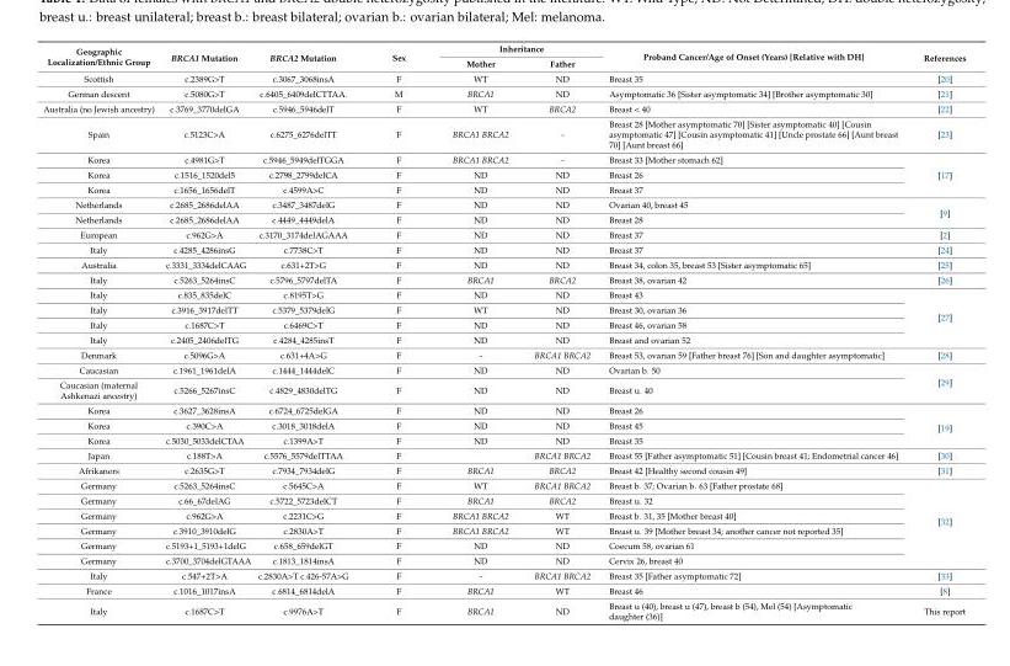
<table><thead><tr><td rowspan="2">Geographic Localization/Ethnic Group</td><td rowspan="2">BRCA1 Mutation</td><td rowspan="2">BRCA2 Mutation</td><td rowspan="2">Sex</td><td colspan="2">Inheritance</td><td rowspan="2">Proband Cancer/Age of Onset (Years) [Relative with DH]</td><td rowspan="2">References</td></tr><tr><td>Mother</td><td>Father</td></tr></thead><tbody><tr><td>Scottish</td><td>c.2389G&gt;T</td><td>c.3067_3068insA</td><td>F</td><td>WT</td><td>ND</td><td>Breast 35</td><td>[20]</td></tr><tr><td>German descent</td><td>c.5080G&gt;T</td><td>c.6405_6409delCTTAA.</td><td>M</td><td>BRCA1</td><td>ND</td><td>Asymptomatic 36 [Sister asymptomatic 34] [Brother asymptomatic 30]</td><td>[21]</td></tr><tr><td>Australia (no Jewish ancestry)</td><td>c.3769_3770delGA</td><td>c.5946_5946delT</td><td>F</td><td>WT</td><td>BRCA2</td><td>Breast &lt; 40</td><td>[22]</td></tr><tr><td>Spain</td><td>c.5123C&gt;A</td><td>c.6275_6276delTT</td><td>F</td><td>BRCA1 BRCA2</td><td>-</td><td>Breast 28 [Mother asymptomatic 70] [Sister asymptomatic 40] [Cousin asymptomatic 47] [Cousin asymptomatic 41] [Uncle prostate 66] [Aunt breast 70] [Aunt breast 66]</td><td>[23]</td></tr><tr><td>Korea</td><td>c.4981G&gt;T</td><td>c.5946_5949delTGGA</td><td>F</td><td>BRCA1 BRCA2</td><td>-</td><td>Breast 33 [Mother stomach 62]</td><td rowspan="3">[17]</td></tr><tr><td>Korea</td><td>c.1516_1520del5</td><td>c.2798_2799delCA</td><td>F</td><td>ND</td><td>ND</td><td>Breast 26</td></tr><tr><td>Korea</td><td>c.1656_1656delT</td><td>c.4599A&gt;C</td><td>F</td><td>ND</td><td>ND</td><td>Breast 37</td></tr><tr><td>Netherlands</td><td>c.2685_2686delAA</td><td>c.3487_3487delG</td><td>F</td><td>ND</td><td>ND</td><td>Ovarian 40, breast 45</td><td rowspan="2">[9]</td></tr><tr><td>Netherlands</td><td>c.2685_2686delAA</td><td>c.4449_4449delA</td><td>F</td><td>ND</td><td>ND</td><td>Breast 28</td></tr><tr><td>European</td><td>c.962G&gt;A</td><td>c.3170_3174delAGAAA</td><td>F</td><td>ND</td><td>ND</td><td>Breast 37</td><td>[2]</td></tr><tr><td>Italy</td><td>c.4285_4286insG</td><td>c.7738C&gt;T</td><td>F</td><td>ND</td><td>ND</td><td>Breast 37</td><td>[24]</td></tr><tr><td>Australia</td><td>c.3331_3334delCAAG</td><td>c.631+2T&gt;G</td><td>F</td><td>ND</td><td>ND</td><td>Breast 34, colon 35, breast 53 [Sister asymptomatic 65]</td><td>[25]</td></tr><tr><td>Italy</td><td>c.5263_5264insC</td><td>c.5796_5797delTA</td><td>F</td><td>BRCA1</td><td>BRCA2</td><td>Breast 38, ovarian 42</td><td>[26]</td></tr><tr><td>Italy</td><td>c.835_835delC</td><td>c.8195T&gt;G</td><td>F</td><td>ND</td><td>ND</td><td>Breast 43</td><td rowspan="4">[27]</td></tr><tr><td>Italy</td><td>c.3916_3917delTT</td><td>c.5379_5379delG</td><td>F</td><td>WT</td><td>ND</td><td>Breast 30, ovarian 36</td></tr><tr><td>Italy</td><td>c.1687C&gt;T</td><td>c.6469C&gt;T</td><td>F</td><td>ND</td><td>ND</td><td>Breast 46, ovarian 58</td></tr><tr><td>Italy</td><td>c.2405_2406delTG</td><td>c.4284_4285insT</td><td>F</td><td>ND</td><td>ND</td><td>Breast and ovarian 52</td></tr><tr><td>Denmark</td><td>c.5096G&gt;A</td><td>c.631+4A&gt;G</td><td>F</td><td>-</td><td>BRCA1 BRCA2</td><td>Breast 53, ovarian 59 [Father breast 76] [Son and daughter asymptomatic]</td><td>[28]</td></tr><tr><td>Caucasian</td><td>c.1961_1961delA</td><td>c.1444_1444delC</td><td>F</td><td>ND</td><td>ND</td><td>Ovarian b. 50</td><td rowspan="2">[29]</td></tr><tr><td>Caucasian (maternal Ashkenazi ancestry)</td><td>c.5266_5267insC</td><td>c.4829_4830delTG</td><td>F</td><td>ND</td><td>ND</td><td>Breast u. 40</td></tr><tr><td>Korea</td><td>c.3627_3628insA</td><td>c.6724_6725delGA</td><td>F</td><td>ND</td><td>ND</td><td>Breast 26</td><td rowspan="3">[19]</td></tr><tr><td>Korea</td><td>c.390C&gt;A</td><td>c.3018_3018delA</td><td>F</td><td>ND</td><td>ND</td><td>Breast 45</td></tr><tr><td>Korea</td><td>c.5030_5033delCTAA</td><td>c.1399A&gt;T</td><td>F</td><td>ND</td><td>ND</td><td>Breast 35</td></tr><tr><td>Japan</td><td>c.188T&gt;A</td><td>c.5576_5579delTTAA</td><td>F</td><td></td><td>BRCA1 BRCA2</td><td>Breast 55 [Father asymptomatic 51] [Cousin breast 41; Endometrial cancer 46]</td><td>[30]</td></tr><tr><td>Afrikaners</td><td>c.2635G&gt;T</td><td>c.7934_7934delG</td><td>F</td><td>BRCA1</td><td>BRCA2</td><td>Breast 42 [Healthy second cousin 49]</td><td>[31]</td></tr><tr><td>Germany</td><td>c.5263_5264insC</td><td>c.5645C&gt;A</td><td>F</td><td>WT</td><td>BRCA1 BRCA2</td><td>Breast b. 37; Ovarian b. 63 [Father prostate 68]</td><td rowspan="6">[32]</td></tr><tr><td>Germany</td><td>c.66_67delAG</td><td>c.5722_5723delCT</td><td>F</td><td>BRCA1</td><td>BRCA2</td><td>Breast u. 32</td></tr><tr><td>Germany</td><td>c.962G&gt;A</td><td>c.2231C&gt;G</td><td>F</td><td>BRCA1 BRCA2</td><td>WT</td><td>Breast b. 31, 35 [Mother breast 40]</td></tr><tr><td>Germany</td><td>c.3910_3910delG</td><td>c.2830A&gt;T</td><td>F</td><td>BRCA1 BRCA2</td><td>WT</td><td>Breast u. 39 [Mother breast 34; another cancer not reported 35]</td></tr><tr><td>Germany</td><td>c.5193+1_5193+1delG</td><td>c.658_659delGT</td><td>F</td><td>ND</td><td>ND</td><td>Coecum 58, ovarian 61</td></tr><tr><td>Germany</td><td>c.3700_3704delGTAAA</td><td>c.1813_1814insA</td><td>F</td><td>ND</td><td>ND</td><td>Cervix 26, breast 40</td></tr><tr><td>Italy</td><td>c.547+2T&gt;A</td><td>c.2830A&gt;T c.426-57A&gt;G</td><td>F</td><td>-</td><td>BRCA1 BRCA2</td><td>Breast 35 [Father asymptomatic 72]</td><td>[33]</td></tr><tr><td>France</td><td>c.1016_1017insA</td><td>c.6814_6814delA</td><td>F</td><td>BRCA1</td><td>WT</td><td>Breast 46</td><td>[8]</td></tr><tr><td>Italy</td><td>c.1687C&gt;T</td><td>c.9976A&gt;T</td><td>F</td><td>BRCA1</td><td>ND</td><td>Breast u (40), breast u (47), breast b (54), Mel (54) [Asymptomatic daughter (36)]</td><td>This report</td></tr></tbody></table>